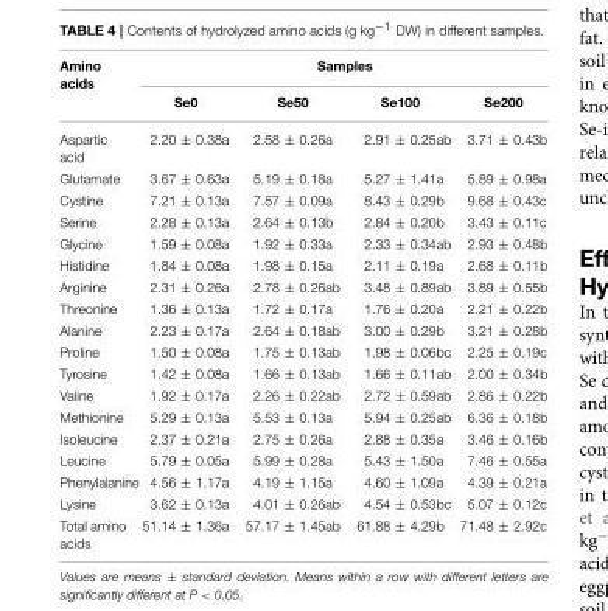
<table><thead><tr><td rowspan="2">Amino acids</td><td colspan="4">Samples</td></tr><tr><td>Se0</td><td>Se50</td><td>Se100</td><td>Se200</td></tr></thead><tbody><tr><td>Aspartic acid</td><td>2.20 ± 0.38a</td><td>2.58 ± 0.26a</td><td>2.91 ± 0.25ab</td><td>3.71 ± 0.43b</td></tr><tr><td>Glutamate</td><td>3.67 ± 0.63a</td><td>5.19 ± 0.18a</td><td>5.27 ± 1.41a</td><td>5.89 ± 0.98a</td></tr><tr><td>Cystine</td><td>7.21 ± 0.13a</td><td>7.57 ± 0.09a</td><td>8.43 ± 0.29b</td><td>9.68 ± 0.43c</td></tr><tr><td>Serine</td><td>2.28 ± 0.13a</td><td>2.64 ± 0.13b</td><td>2.84 ± 0.20b</td><td>3.43 ± 0.11c</td></tr><tr><td>Glycine</td><td>1.59 ± 0.08a</td><td>1.92 ± 0.33a</td><td>2.33 ± 0.34ab</td><td>2.93 ± 0.48b</td></tr><tr><td>Histidine</td><td>1.84 ± 0.08a</td><td>1.98 ± 0.15a</td><td>2.11 ± 0.19a</td><td>2.68 ± 0.11b</td></tr><tr><td>Arginine</td><td>2.31 ± 0.26a</td><td>2.78 ± 0.26ab</td><td>3.48 ± 0.89ab</td><td>3.89 ± 0.55b</td></tr><tr><td>Threonine</td><td>1.36 ± 0.13a</td><td>1.72 ± 0.17a</td><td>1.76 ± 0.20a</td><td>2.21 ± 0.22b</td></tr><tr><td>Alanine</td><td>2.23 ± 0.17a</td><td>2.64 ± 0.18ab</td><td>3.00 ± 0.29b</td><td>3.21 ± 0.28b</td></tr><tr><td>Proline</td><td>1.50 ± 0.08a</td><td>1.75 ± 0.13ab</td><td>1.98 ± 0.06bc</td><td>2.25 ± 0.19c</td></tr><tr><td>Tyrosine</td><td>1.42 ± 0.08a</td><td>1.66 ± 0.13ab</td><td>1.66 ± 0.11ab</td><td>2.00 ± 0.34b</td></tr><tr><td>Valine</td><td>1.92 ± 0.17a</td><td>2.26 ± 0.22ab</td><td>2.72 ± 0.59ab</td><td>2.86 ± 0.22b</td></tr><tr><td>Methionine</td><td>5.29 ± 0.13a</td><td>5.53 ± 0.13a</td><td>5.94 ± 0.25ab</td><td>6.36 ± 0.18b</td></tr><tr><td>Isoleucine</td><td>2.37 ± 0.21a</td><td>2.75 ± 0.26a</td><td>2.88 ± 0.35a</td><td>3.46 ± 0.16b</td></tr><tr><td>Leucine</td><td>5.79 ± 0.05a</td><td>5.99 ± 0.28a</td><td>5.43 ± 1.50a</td><td>7.46 ± 0.55a</td></tr><tr><td>Phenylalanine</td><td>4.56 ± 1.17a</td><td>4.19 ± 1.15a</td><td>4.60 ± 1.09a</td><td>4.39 ± 0.21a</td></tr><tr><td>Lysine</td><td>3.62 ± 0.13a</td><td>4.01 ± 0.26ab</td><td>4.54 ± 0.53bc</td><td>5.07 ± 0.12c</td></tr><tr><td>Total amino acids</td><td>51.14 ± 1.36a</td><td>57.17 ± 1.45ab</td><td>61.88 ± 4.29b</td><td>71.48 ± 2.92c</td></tr></tbody></table>